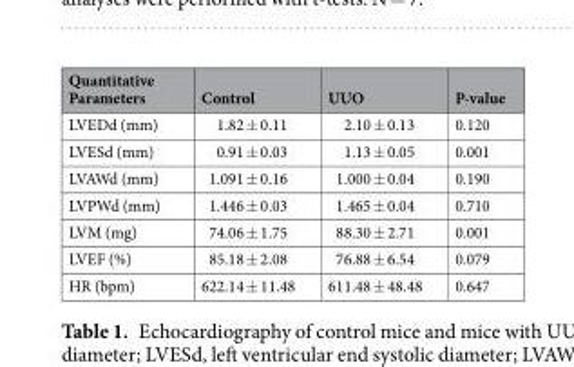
<table><thead><tr><td>Quantitative Parameters</td><td>Control</td><td>UUO</td><td>P-value</td></tr></thead><tbody><tr><td>LVEDd (mm)</td><td>1.82 ± 0.11</td><td>2.10 ± 0.13</td><td>0.120</td></tr><tr><td>LVESd (mm)</td><td>0.91 ± 0.03</td><td>1.13 ± 0.05</td><td>0.001</td></tr><tr><td>LVAWd (mm)</td><td>1.091 ± 0.16</td><td>1.000 ± 0.04</td><td>0.190</td></tr><tr><td>LVPWd (mm)</td><td>1.446 ± 0.03</td><td>1.465 ± 0.04</td><td>0.710</td></tr><tr><td>LVM (mg)</td><td>74.06 ± 1.75</td><td>88.30 ± 2.71</td><td>0.001</td></tr><tr><td>LVEF (%)</td><td>85.18 ± 2.08</td><td>76.88 ± 6.54</td><td>0.079</td></tr><tr><td>HR (bpm)</td><td>622.14 ± 11.48</td><td>611.48 ± 48.48</td><td>0.647</td></tr></tbody></table>